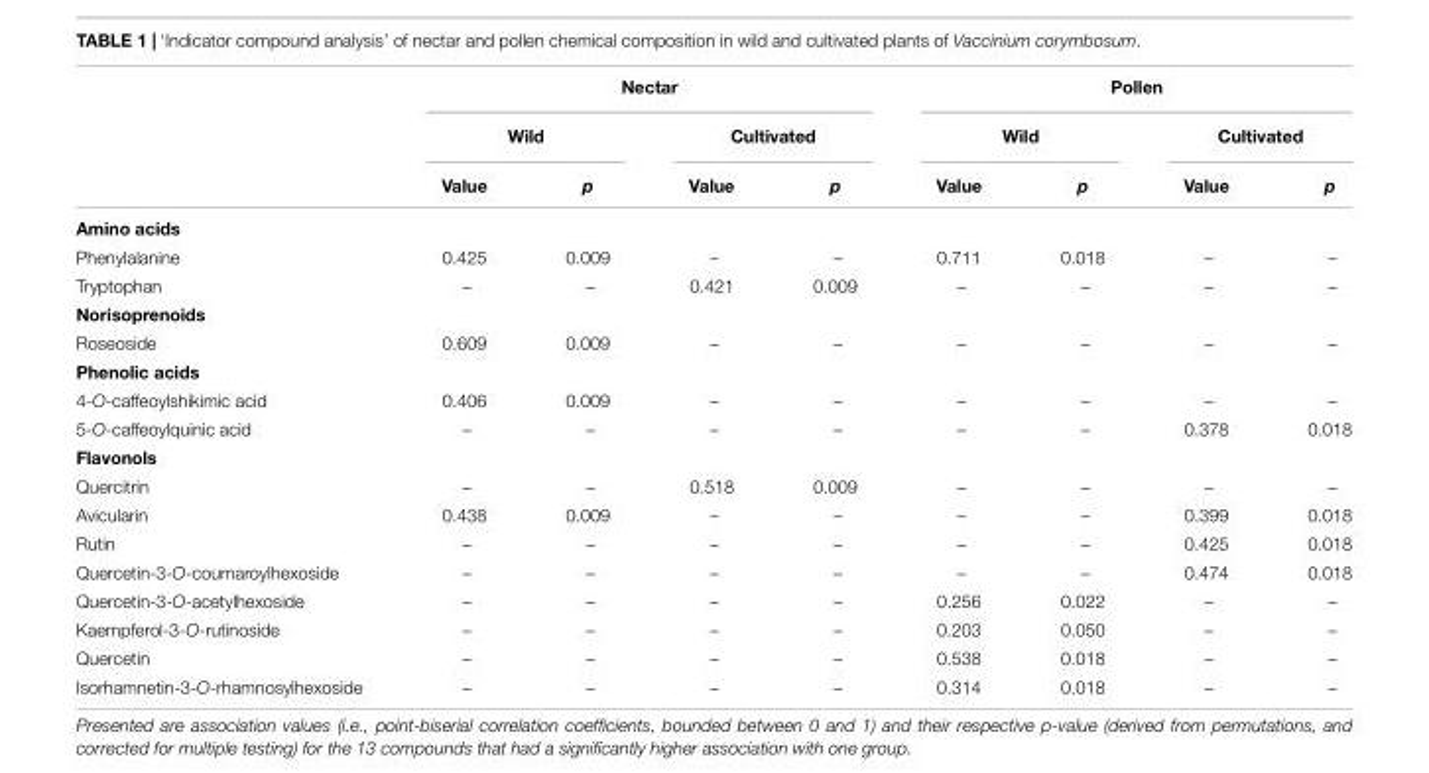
<table><thead><tr><td rowspan="3"></td><td colspan="4">Nectar</td><td colspan="4">Pollen</td></tr><tr><td colspan="2">Wild</td><td colspan="2">Cultivated</td><td colspan="2">Wild</td><td colspan="2">Cultivated</td></tr><tr><td>Value</td><td>p</td><td>Value</td><td>p</td><td>Value</td><td>p</td><td>Value</td><td>p</td></tr></thead><tbody><tr><td colspan="9">Amino acids</td></tr><tr><td>Phenylalanine</td><td>0.425</td><td>0.009</td><td>–</td><td>–</td><td>0.711</td><td>0.018</td><td>–</td><td>–</td></tr><tr><td>Tryptophan</td><td>–</td><td>–</td><td>0.421</td><td>0.009</td><td>–</td><td>–</td><td>–</td><td>–</td></tr><tr><td colspan="9">Norisoprenoids</td></tr><tr><td>Roseoside</td><td>0.609</td><td>0.009</td><td>–</td><td>–</td><td>–</td><td>–</td><td>–</td><td>–</td></tr><tr><td colspan="9">Phenolic acids</td></tr><tr><td>4-O-caffeoylshikimic acid</td><td>0.406</td><td>0.009</td><td>–</td><td>–</td><td>–</td><td>–</td><td>–</td><td>–</td></tr><tr><td>5-O-caffeoylquinic acid</td><td>–</td><td>–</td><td>–</td><td>–</td><td>–</td><td>–</td><td>0.378</td><td>0.018</td></tr><tr><td colspan="9">Flavonols</td></tr><tr><td>Quercitrin</td><td>–</td><td>–</td><td>0.518</td><td>0.009</td><td>–</td><td>–</td><td>–</td><td>–</td></tr><tr><td>Avicularin</td><td>0.438</td><td>0.009</td><td>–</td><td>–</td><td>–</td><td>–</td><td>0.399</td><td>0.018</td></tr><tr><td>Rutin</td><td>–</td><td>–</td><td>–</td><td>–</td><td>–</td><td>–</td><td>0.425</td><td>0.018</td></tr><tr><td>Quercetin-3-O-coumaroylhexoside</td><td>–</td><td>–</td><td>–</td><td>–</td><td>–</td><td>–</td><td>0.474</td><td>0.018</td></tr><tr><td>Quercetin-3-O-acetylhexoside</td><td>–</td><td>–</td><td>–</td><td>–</td><td>0.256</td><td>0.022</td><td>–</td><td>–</td></tr><tr><td>Kaempferol-3-O-rutinoside</td><td>–</td><td>–</td><td>–</td><td>–</td><td>0.203</td><td>0.050</td><td>–</td><td>–</td></tr><tr><td>Quercetin</td><td>–</td><td>–</td><td>–</td><td>–</td><td>0.538</td><td>0.018</td><td>–</td><td>–</td></tr><tr><td>Isorhamnetin-3-O-rhamnosylhexoside</td><td>–</td><td>–</td><td>–</td><td>–</td><td>0.314</td><td>0.018</td><td>–</td><td>–</td></tr></tbody></table>